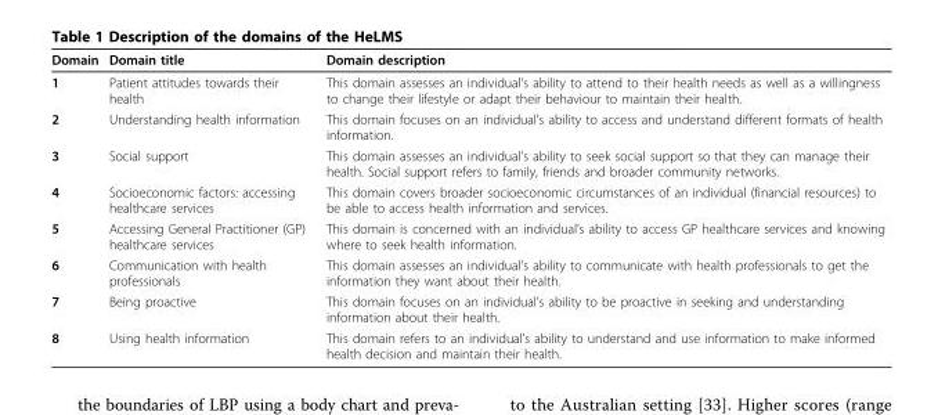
<table><thead><tr><td>Domain</td><td>Domain title</td><td>Domain description</td></tr></thead><tbody><tr><td>1</td><td>Patient attitudes towards their health</td><td>This domain assesses an individual’s ability to attend to their health needs as well as a willingness to change their lifestyle or adapt their behaviour to maintain their health.</td></tr><tr><td>2</td><td>Understanding health information</td><td>This domain focuses on an individual’s ability to access and understand different formats of health information.</td></tr><tr><td>3</td><td>Social support</td><td>This domain assesses an individual’s ability to seek social support so that they can manage their health. Social support refers to family, friends and broader community networks.</td></tr><tr><td>4</td><td>Socioeconomic factors: accessing healthcare services</td><td>This domain covers broader socioeconomic circumstances of an individual (financial resources) to be able to access health information and services.</td></tr><tr><td>5</td><td>Accessing General Practitioner (GP) healthcare services</td><td>This domain is concerned with an individual’s ability to access GP healthcare services and knowing where to seek health information.</td></tr><tr><td>6</td><td>Communication with health professionals</td><td>This domain assesses an individual’s ability to communicate with health professionals to get the information they want about their health.</td></tr><tr><td>7</td><td>Being proactive</td><td>This domain focuses on an individual’s ability to be proactive in seeking and understanding information about their health.</td></tr><tr><td>8</td><td>Using health information</td><td>This domain refers to an individual’s ability to understand and use information to make informed health decision and maintain their health.</td></tr></tbody></table>